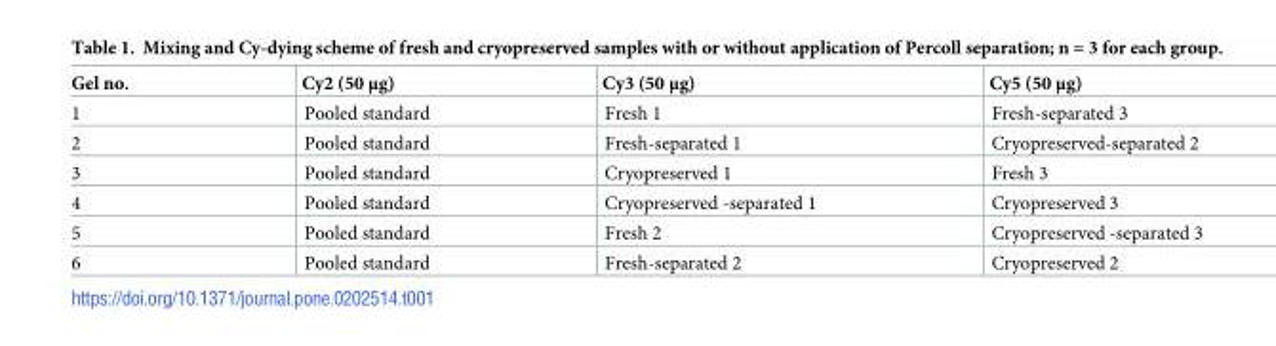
<table><thead><tr><td>Gel no.</td><td>Cy2 (50 μg)</td><td>Cy3 (50 μg)</td><td>Cy5 (50 μg)</td></tr></thead><tbody><tr><td>1</td><td>Pooled standard</td><td>Fresh 1</td><td>Fresh-separated 3</td></tr><tr><td>2</td><td>Pooled standard</td><td>Fresh-separated 1</td><td>Cryopreserved-separated 2</td></tr><tr><td>3</td><td>Pooled standard</td><td>Cryopreserved 1</td><td>Fresh 3</td></tr><tr><td>4</td><td>Pooled standard</td><td>Cryopreserved -separated 1</td><td>Cryopreserved 3</td></tr><tr><td>5</td><td>Pooled standard</td><td>Fresh 2</td><td>Cryopreserved -separated 3</td></tr><tr><td>6</td><td>Pooled standard</td><td>Fresh-separated 2</td><td>Cryopreserved 2</td></tr></tbody></table>